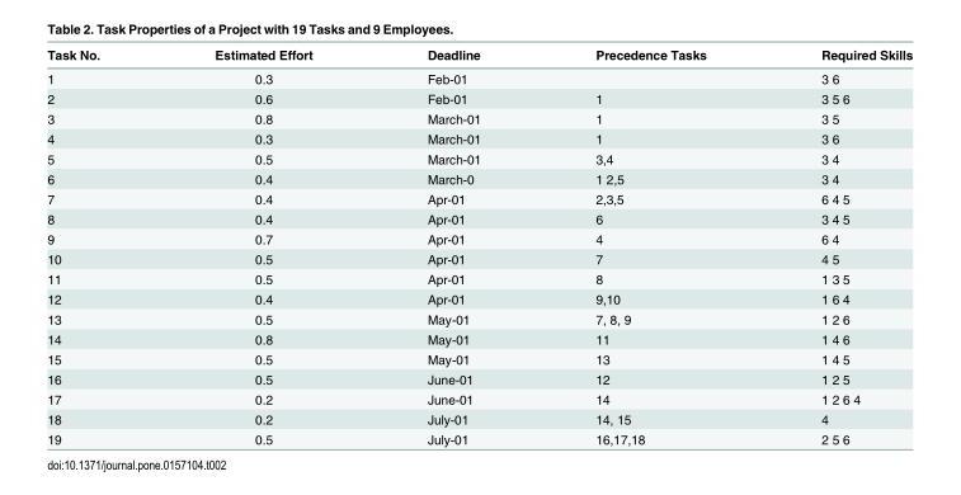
<table><thead><tr><td>Task No.</td><td>Estimated Effort</td><td>Deadline</td><td>Precedence Tasks</td><td>Required Skills</td></tr></thead><tbody><tr><td>1</td><td>0.3</td><td>Feb-01</td><td></td><td>3 6</td></tr><tr><td>2</td><td>0.6</td><td>Feb-01</td><td>1</td><td>3 5 6</td></tr><tr><td>3</td><td>0.8</td><td>March-01</td><td>1</td><td>3 5</td></tr><tr><td>4</td><td>0.3</td><td>March-01</td><td>1</td><td>3 6</td></tr><tr><td>5</td><td>0.5</td><td>March-01</td><td>3,4</td><td>3 4</td></tr><tr><td>6</td><td>0.4</td><td>March-0</td><td>1 2,5</td><td>3 4</td></tr><tr><td>7</td><td>0.4</td><td>Apr-01</td><td>2,3,5</td><td>6 4 5</td></tr><tr><td>8</td><td>0.4</td><td>Apr-01</td><td>6</td><td>3 4 5</td></tr><tr><td>9</td><td>0.7</td><td>Apr-01</td><td>4</td><td>6 4</td></tr><tr><td>10</td><td>0.5</td><td>Apr-01</td><td>7</td><td>4 5</td></tr><tr><td>11</td><td>0.5</td><td>Apr-01</td><td>8</td><td>1 3 5</td></tr><tr><td>12</td><td>0.4</td><td>Apr-01</td><td>9,10</td><td>1 6 4</td></tr><tr><td>13</td><td>0.5</td><td>May-01</td><td>7, 8, 9</td><td>1 2 6</td></tr><tr><td>14</td><td>0.8</td><td>May-01</td><td>11</td><td>1 4 6</td></tr><tr><td>15</td><td>0.5</td><td>May-01</td><td>13</td><td>1 4 5</td></tr><tr><td>16</td><td>0.5</td><td>June-01</td><td>12</td><td>1 2 5</td></tr><tr><td>17</td><td>0.2</td><td>June-01</td><td>14</td><td>1 2 6 4</td></tr><tr><td>18</td><td>0.2</td><td>July-01</td><td>14, 15</td><td>4</td></tr><tr><td>19</td><td>0.5</td><td>July-01</td><td>16,17,18</td><td>2 5 6</td></tr></tbody></table>